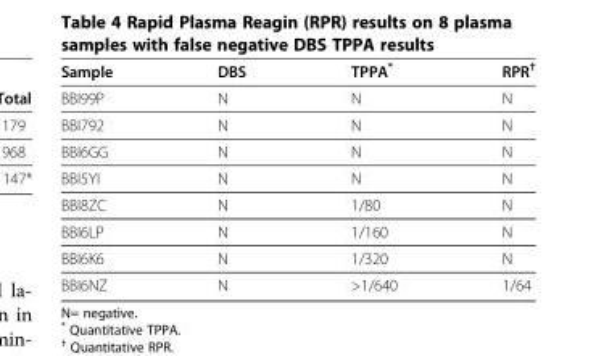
<table><thead><tr><td>Sample</td><td>DBS</td><td>TPPA*</td><td>RPR<sup>†</sup></td></tr></thead><tbody><tr><td>BBI99P</td><td>N</td><td>N</td><td>N</td></tr><tr><td>BBI792</td><td>N</td><td>N</td><td>N</td></tr><tr><td>BBI6GG</td><td>N</td><td>N</td><td>N</td></tr><tr><td>BBI5YI</td><td>N</td><td>N</td><td>N</td></tr><tr><td>BBI8ZC</td><td>N</td><td>1/80</td><td>N</td></tr><tr><td>BBI6LP</td><td>N</td><td>1/160</td><td>N</td></tr><tr><td>BBI6K6</td><td>N</td><td>1/320</td><td>N</td></tr><tr><td>BBI6NZ</td><td>N</td><td>&gt;1/640</td><td>1/64</td></tr></tbody></table>